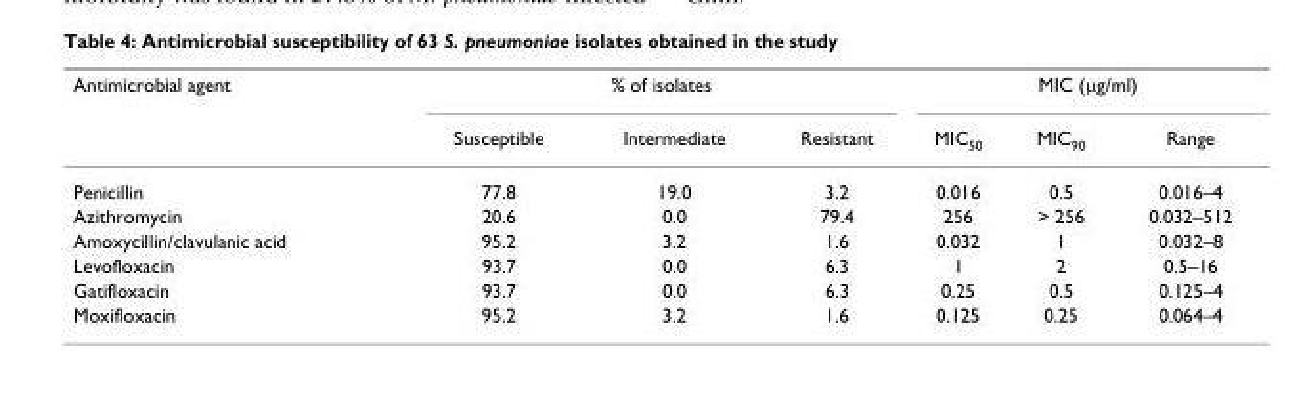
<table><thead><tr><td rowspan="2">Antimicrobial agent</td><td colspan="3">% of isolates</td><td colspan="3">MIC (μg/ml)</td></tr><tr><td>Susceptible</td><td>Intermediate</td><td>Resistant</td><td>MIC<sub>50</sub></td><td>MIC<sub>90</sub></td><td>Range</td></tr></thead><tbody><tr><td>Penicillin</td><td>77.8</td><td>19.0</td><td>3.2</td><td>0.016</td><td>0.5</td><td>0.016–4</td></tr><tr><td>Azithromycin</td><td>20.6</td><td>0.0</td><td>79.4</td><td>256</td><td>&gt; 256</td><td>0.032–512</td></tr><tr><td>Amoxycillin/clavulanic acid</td><td>95.2</td><td>3.2</td><td>1.6</td><td>0.032</td><td>1</td><td>0.032–8</td></tr><tr><td>Levofloxacin</td><td>93.7</td><td>0.0</td><td>6.3</td><td>1</td><td>2</td><td>0.5–16</td></tr><tr><td>Gatifloxacin</td><td>93.7</td><td>0.0</td><td>6.3</td><td>0.25</td><td>0.5</td><td>0.125–4</td></tr><tr><td>Moxifloxacin</td><td>95.2</td><td>3.2</td><td>1.6</td><td>0.125</td><td>0.25</td><td>0.064–4</td></tr></tbody></table>